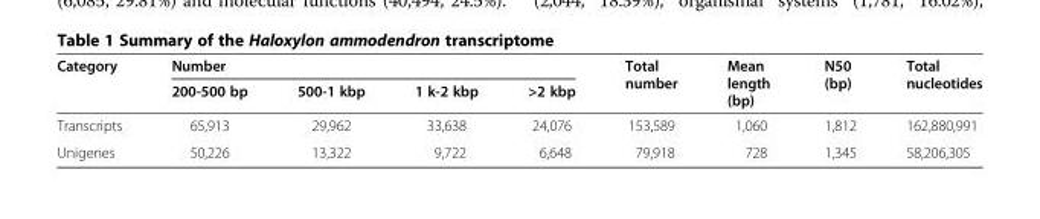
<table><thead><tr><td rowspan="2">Category</td><td colspan="4">Number</td><td rowspan="2">Total number</td><td rowspan="2">Mean length (bp)</td><td rowspan="2">N50 (bp)</td><td rowspan="2">Total nucleotides</td></tr><tr><td>200-500 bp</td><td>500-1 kbp</td><td>1 k-2 kbp</td><td>&gt;2 kbp</td></tr></thead><tbody><tr><td>Transcripts</td><td>65,913</td><td>29,962</td><td>33,638</td><td>24,076</td><td>153,589</td><td>1,060</td><td>1,812</td><td>162,880,991</td></tr><tr><td>Unigenes</td><td>50,226</td><td>13,322</td><td>9,722</td><td>6,648</td><td>79,918</td><td>728</td><td>1,345</td><td>58,206,305</td></tr></tbody></table>